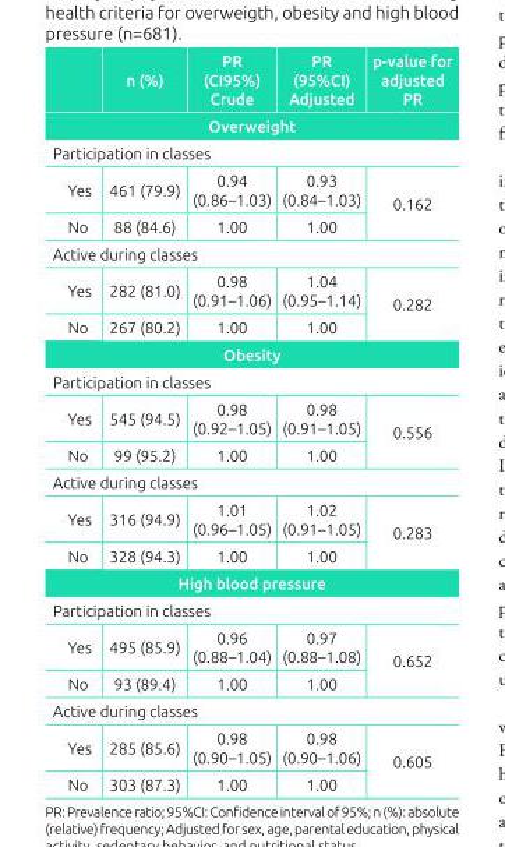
<table><thead><tr><td></td><td>n (%)</td><td>PR (CI95%) Crude</td><td>PR (95%CI) Adjusted</td><td>p-value for adjusted PR</td></tr><tr><td colspan="5">Overweight</td></tr></thead><tbody><tr><td colspan="5">Participation in classes</td></tr><tr><td>Yes</td><td>461 (79.9)</td><td>0.94 (0.86–1.03)</td><td>0.93 (0.84–1.03)</td><td rowspan="2">0.162</td></tr><tr><td>No</td><td>88 (84.6)</td><td>1.00</td><td>1.00</td></tr><tr><td colspan="5">Active during classes</td></tr><tr><td>Yes</td><td>282 (81.0)</td><td>0.98 (0.91–1.06)</td><td>1.04 (0.95–1.14)</td><td rowspan="2">0.282</td></tr><tr><td>No</td><td>267 (80.2)</td><td>1.00</td><td>1.00</td></tr><tr><td colspan="5">Obesity</td></tr><tr><td colspan="5">Participation in classes</td></tr><tr><td>Yes</td><td>545 (94.5)</td><td>0.98 (0.92–1.05)</td><td>0.98 (0.91–1.05)</td><td rowspan="2">0.556</td></tr><tr><td>No</td><td>99 (95.2)</td><td>1.00</td><td>1.00</td></tr><tr><td colspan="5">Active during classes</td></tr><tr><td>Yes</td><td>316 (94.9)</td><td>1.01 (0.96–1.05)</td><td>1.02 (0.91–1.05)</td><td rowspan="2">0.283</td></tr><tr><td>No</td><td>328 (94.3)</td><td>1.00</td><td>1.00</td></tr><tr><td colspan="5">High blood pressure</td></tr><tr><td colspan="5">Participation in classes</td></tr><tr><td>Yes</td><td>495 (85.9)</td><td>0.96 (0.88–1.04)</td><td>0.97 (0.88–1.08)</td><td rowspan="2">0.652</td></tr><tr><td>No</td><td>93 (89.4)</td><td>1.00</td><td>1.00</td></tr><tr><td colspan="5">Active during classes</td></tr><tr><td>Yes</td><td>285 (85.6)</td><td>0.98 (0.90–1.05)</td><td>0.98 (0.90–1.06)</td><td rowspan="2">0.605</td></tr><tr><td>No</td><td>303 (87.3)</td><td>1.00</td><td>1.00</td></tr></tbody></table>